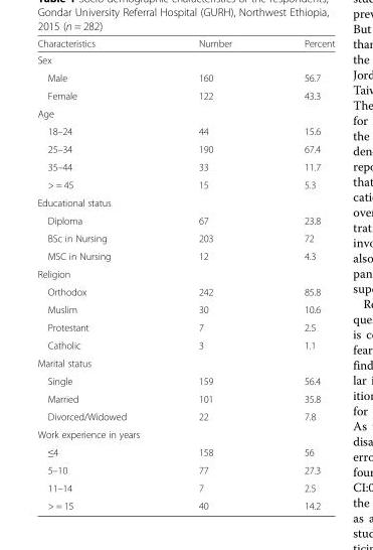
<table><thead><tr><td>Characteristics</td><td>Number</td><td>Percent</td></tr></thead><tbody><tr><td colspan="3">Sex</td></tr><tr><td>Male</td><td>160</td><td>56.7</td></tr><tr><td>Female</td><td>122</td><td>43.3</td></tr><tr><td colspan="3">Age</td></tr><tr><td>18–24</td><td>44</td><td>15.6</td></tr><tr><td>25–34</td><td>190</td><td>67.4</td></tr><tr><td>35–44</td><td>33</td><td>11.7</td></tr><tr><td>&gt; = 45</td><td>15</td><td>5.3</td></tr><tr><td colspan="3">Educational status</td></tr><tr><td>Diploma</td><td>67</td><td>23.8</td></tr><tr><td>BSc in Nursing</td><td>203</td><td>72</td></tr><tr><td>MSC in Nursing</td><td>12</td><td>4.3</td></tr><tr><td colspan="3">Religion</td></tr><tr><td>Orthodox</td><td>242</td><td>85.8</td></tr><tr><td>Muslim</td><td>30</td><td>10.6</td></tr><tr><td>Protestant</td><td>7</td><td>2.5</td></tr><tr><td>Catholic</td><td>3</td><td>1.1</td></tr><tr><td colspan="3">Marital status</td></tr><tr><td>Single</td><td>159</td><td>56.4</td></tr><tr><td>Married</td><td>101</td><td>35.8</td></tr><tr><td>Divorced/Widowed</td><td>22</td><td>7.8</td></tr><tr><td colspan="3">Work experience in years</td></tr><tr><td>≤4</td><td>158</td><td>56</td></tr><tr><td>5–10</td><td>77</td><td>27.3</td></tr><tr><td>11–14</td><td>7</td><td>2.5</td></tr><tr><td>&gt; = 15</td><td>40</td><td>14.2</td></tr></tbody></table>